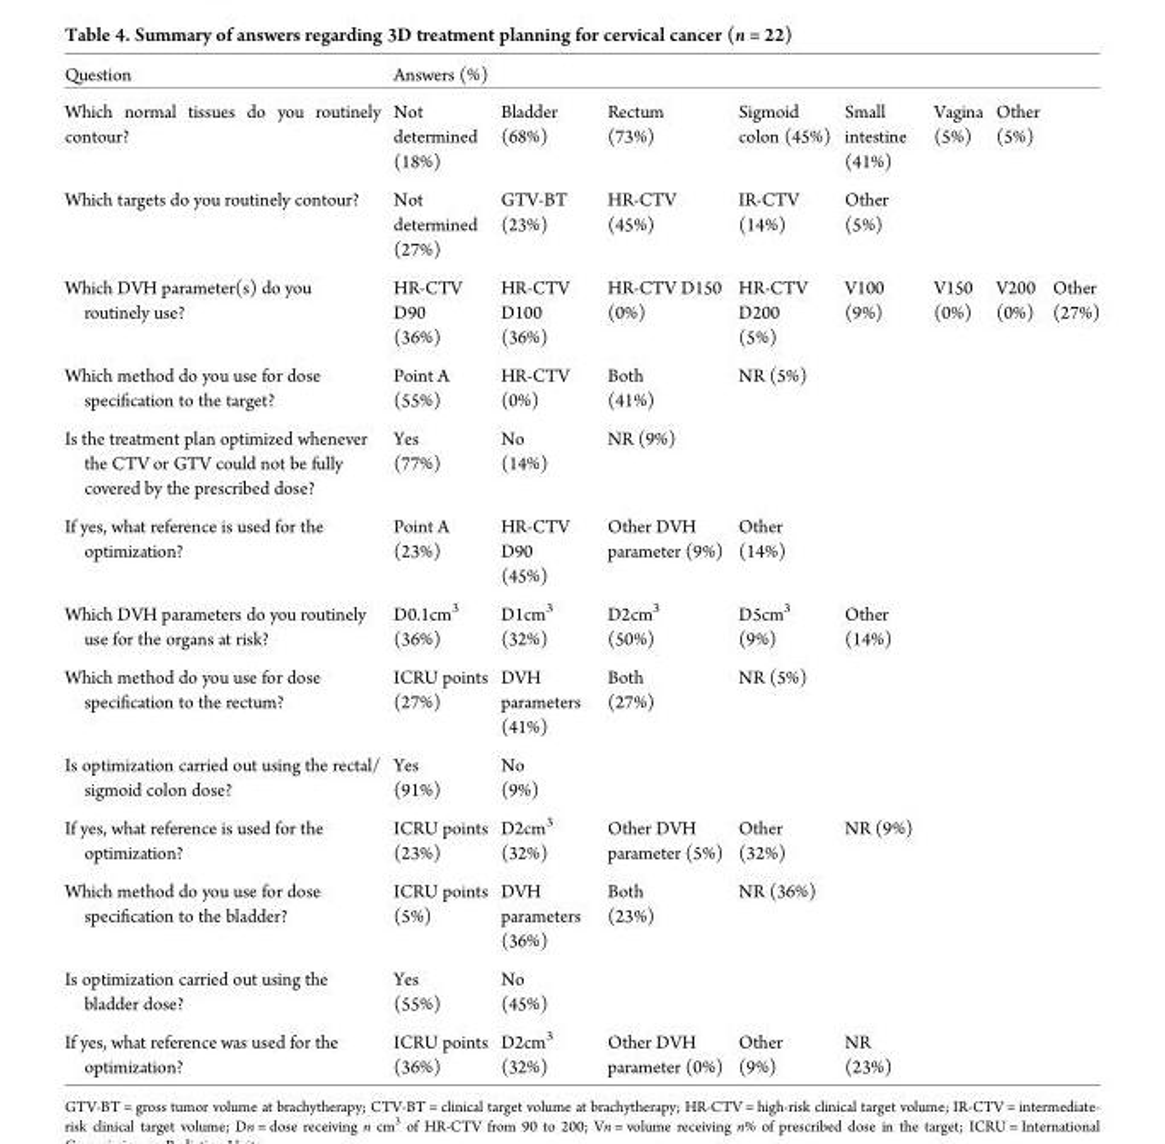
<table><thead><tr><td rowspan="2">Question Which normal tissues do you routinely contour?</td><td colspan="8">Answers (%)</td></tr><tr><td>Not determined (18%)</td><td>Bladder (68%)</td><td>Rectum (73%)</td><td>Sigmoid colon (45%)</td><td>Small intestine (41%)</td><td>Vagina (5%)</td><td>Other (5%)</td><td></td></tr></thead><tbody><tr><td>Which targets do you routinely contour?</td><td>Not determined (27%)</td><td>GTV-BT (23%)</td><td>HR-CTV (45%)</td><td>IR-CTV (14%)</td><td>Other (5%)</td><td></td><td></td><td></td></tr><tr><td>Which DVH parameter(s) do you routinely use?</td><td>HR-CTV D90 (36%)</td><td>HR-CTV D100 (36%)</td><td>HR-CTV D150 (0%)</td><td>HR-CTV D200 (5%)</td><td>V100 (9%)</td><td>V150 (0%)</td><td>V200 (0%)</td><td>Other (27%)</td></tr><tr><td>Which method do you use for dose specification to the target?</td><td>Point A (55%)</td><td>HR-CTV (0%)</td><td>Both (41%)</td><td>NR (5%)</td><td></td><td></td><td></td><td></td></tr><tr><td>Is the treatment plan optimized whenever the CTV or GTV could not be fully covered by the prescribed dose?</td><td>Yes (77%)</td><td>No (14%)</td><td>NR (9%)</td><td></td><td></td><td></td><td></td><td></td></tr><tr><td>If yes, what reference is used for the optimization?</td><td>Point A (23%)</td><td>HR-CTV D90 (45%)</td><td>Other DVH parameter (9%)</td><td>Other (14%)</td><td></td><td></td><td></td><td></td></tr><tr><td>Which DVH parameters do you routinely use for the organs at risk?</td><td>D0.1cm<sup>3</sup> (36%)</td><td>D1cm<sup>3</sup> (32%)</td><td>D2cm<sup>3</sup> (50%)</td><td>D5cm<sup>3</sup> (9%)</td><td>Other (14%)</td><td></td><td></td><td></td></tr><tr><td>Which method do you use for dose specification to the rectum?</td><td>ICRU points (27%)</td><td>DVH parameters (41%)</td><td>Both (27%)</td><td>NR (5%)</td><td></td><td></td><td></td><td></td></tr><tr><td>Is optimization carried out using the rectal/ sigmoid colon dose?</td><td>Yes (91%)</td><td>No (9%)</td><td></td><td></td><td></td><td></td><td></td><td></td></tr><tr><td>If yes, what reference is used for the optimization?</td><td>ICRU points (23%)</td><td>D2cm<sup>3</sup> (32%)</td><td>Other DVH parameter (5%)</td><td>Other (32%)</td><td>NR (9%)</td><td></td><td></td><td></td></tr><tr><td>Which method do you use for dose specification to the bladder?</td><td>ICRU points (5%)</td><td>DVH parameters (36%)</td><td>Both (23%)</td><td>NR (36%)</td><td></td><td></td><td></td><td></td></tr><tr><td>Is optimization carried out using the bladder dose?</td><td>Yes (55%)</td><td>No (45%)</td><td></td><td></td><td></td><td></td><td></td><td></td></tr><tr><td>If yes, what reference was used for the optimization?</td><td>ICRU points (36%)</td><td>D2cm<sup>3</sup> (32%)</td><td>Other DVH parameter (0%)</td><td>Other (9%)</td><td>NR (23%)</td><td></td><td></td><td></td></tr></tbody></table>